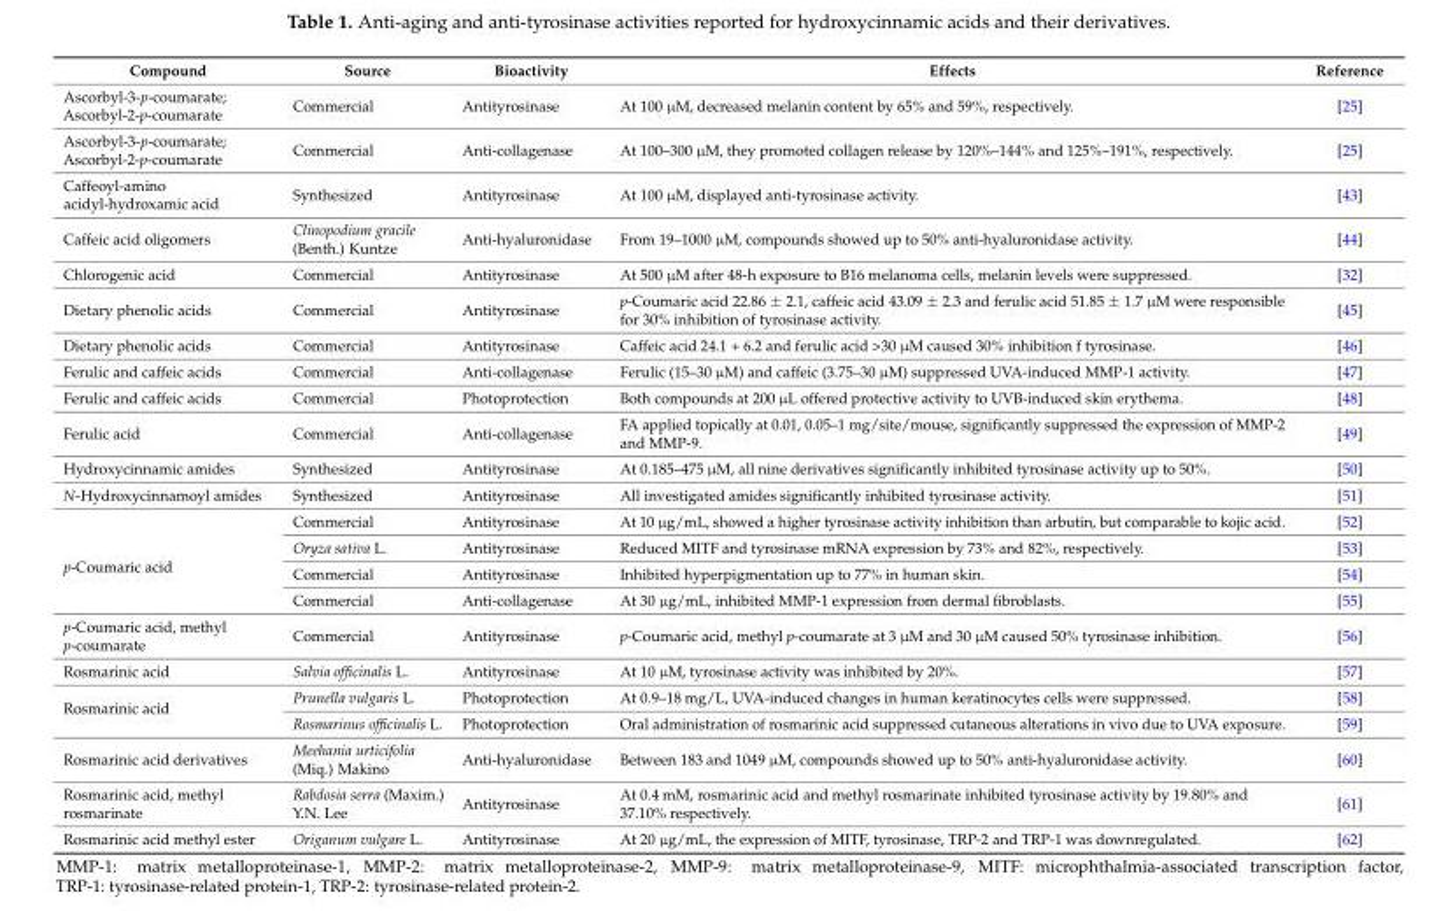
<table><thead><tr><td>Compound</td><td>Source</td><td>Bioactivity</td><td>Effects</td><td>Reference</td></tr></thead><tbody><tr><td>Ascorbyl-3-p-coumarate; Ascorbyl-2-p-coumarate</td><td>Commercial</td><td>Antityrosinase</td><td>At 100 µM, decreased melanin content by 65% and 59%, respectively.</td><td>[25]</td></tr><tr><td>Ascorbyl-3-p-coumarate; Ascorbyl-2-p-coumarate</td><td>Commercial</td><td>Anti-collagenase</td><td>At 100–300 µM, they promoted collagen release by 120%–144% and 125%–191%, respectively.</td><td>[25]</td></tr><tr><td>Caffeoyl-amino acidyl-hydroxamic acid</td><td>Synthesized</td><td>Antityrosinase</td><td>At 100 µM, displayed anti-tyrosinase activity.</td><td>[43]</td></tr><tr><td>Caffeic acid oligomers</td><td>Clinopodium gracile (Benth.) Kuntze</td><td>Anti-hyaluronidase</td><td>From 19–1000 µM, compounds showed up to 50% anti-hyaluronidase activity.</td><td>[44]</td></tr><tr><td>Chlorogenic acid</td><td>Commercial</td><td>Antityrosinase</td><td>At 500 µM after 48-h exposure to B16 melanoma cells, melanin levels were suppressed.</td><td>[32]</td></tr><tr><td>Dietary phenolic acids</td><td>Commercial</td><td>Antityrosinase</td><td>p-Coumaric acid 22.86 ± 2.1, caffeic acid 43.09 ± 2.3 and ferulic acid 51.85 ± 1.7 µM were responsible for 30% inhibition of tyrosinase activity.</td><td>[45]</td></tr><tr><td>Dietary phenolic acids</td><td>Commercial</td><td>Antityrosinase</td><td>Caffeic acid 24.1 + 6.2 and ferulic acid &gt;30 µM caused 30% inhibition f tyrosinase.</td><td>[46]</td></tr><tr><td>Ferulic and caffeic acids</td><td>Commercial</td><td>Anti-collagenase</td><td>Ferulic (15–30 µM) and caffeic (3.75–30 µM) suppressed UVA-induced MMP-1 activity.</td><td>[47]</td></tr><tr><td>Ferulic and caffeic acids</td><td>Commercial</td><td>Photoprotection</td><td>Both compounds at 200 µL offered protective activity to UVB-induced skin erythema.</td><td>[48]</td></tr><tr><td>Ferulic acid</td><td>Commercial</td><td>Anti-collagenase</td><td>FA applied topically at 0.01, 0.05–1 mg/site/mouse, significantly suppressed the expression of MMP-2 and MMP-9.</td><td>[49]</td></tr><tr><td>Hydroxycinnamic amides</td><td>Synthesized</td><td>Antityrosinase</td><td>At 0.185–475 µM, all nine derivatives significantly inhibited tyrosinase activity up to 50%.</td><td>[50]</td></tr><tr><td>N-Hydroxycinnamoyl amides</td><td>Synthesized</td><td>Antityrosinase</td><td>All investigated amides significantly inhibited tyrosinase activity.</td><td>[51]</td></tr><tr><td rowspan="4">p-Coumaric acid</td><td>Commercial</td><td>Antityrosinase</td><td>At 10 µg/mL, showed a higher tyrosinase activity inhibition than arbutin, but comparable to kojic acid.</td><td>[52]</td></tr><tr><td>Oryza sativa L.</td><td>Antityrosinase</td><td>Reduced MITF and tyrosinase mRNA expression by 73% and 82%, respectively.</td><td>[53]</td></tr><tr><td>Commercial</td><td>Antityrosinase</td><td>Inhibited hyperpigmentation up to 77% in human skin.</td><td>[54]</td></tr><tr><td>Commercial</td><td>Anti-collagenase</td><td>At 30 µg/mL, inhibited MMP-1 expression from dermal fibroblasts.</td><td>[55]</td></tr><tr><td>p-Coumaric acid, methyl p-coumarate</td><td>Commercial</td><td>Antityrosinase</td><td>p-Coumaric acid, methyl p-coumarate at 3 µM and 30 µM caused 50% tyrosinase inhibition.</td><td>[56]</td></tr><tr><td>Rosmarinic acid</td><td>Salvia officinalis L.</td><td>Antityrosinase</td><td>At 10 µM, tyrosinase activity was inhibited by 20%.</td><td>[57]</td></tr><tr><td rowspan="2">Rosmarinic acid</td><td>Prunella vulgaris L.</td><td>Photoprotection</td><td>At 0.9–18 mg/L, UVA-induced changes in human keratinocytes cells were suppressed.</td><td>[58]</td></tr><tr><td>Rosmarinus officinalis L.</td><td>Photoprotection</td><td>Oral administration of rosmarinic acid suppressed cutaneous alterations in vivo due to UVA exposure.</td><td>[59]</td></tr><tr><td>Rosmarinic acid derivatives</td><td>Meehania urticifolia (Miq.) Makino</td><td>Anti-hyaluronidase</td><td>Between 183 and 1049 µM, compounds showed up to 50% anti-hyaluronidase activity.</td><td>[60]</td></tr><tr><td>Rosmarinic acid, methyl rosmarinate</td><td>Rabdosia serra (Maxim.) Y.N. Lee</td><td>Antityrosinase</td><td>At 0.4 mM, rosmarinic acid and methyl rosmarinate inhibited tyrosinase activity by 19.80% and 37.10% respectively.</td><td>[61]</td></tr><tr><td>Rosmarinic acid methyl ester</td><td>Origanum vulgare L.</td><td>Antityrosinase</td><td>At 20 µg/mL, the expression of MITF, tyrosinase, TRP-2 and TRP-1 was downregulated.</td><td>[62]</td></tr></tbody></table>